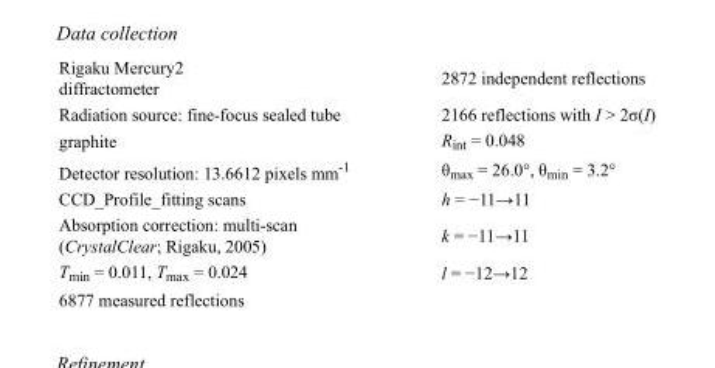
<table><tbody><tr><td>Rigaku Mercury2 diffractometer</td><td>2872 independent reflections</td></tr><tr><td>Radiation source: fine-focus sealed tube</td><td>2166 reflections with I &gt; 2σ(I)</td></tr><tr><td>graphite</td><td>R<sub>int</sub> = 0.048</td></tr><tr><td>Detector resolution: 13.6612 pixels mm<sup>-1</sup></td><td>θ<sub>max</sub> = 26.0°, θ<sub>min</sub> = 3.2°</td></tr><tr><td>CCD_Profile_fitting scans</td><td>h = −11→11</td></tr><tr><td>Absorption correction: multi-scan (CrystalClear; Rigaku, 2005)</td><td>k = −11→11</td></tr><tr><td>T<sub>min</sub> = 0.011, T<sub>max</sub> = 0.024</td><td>l = −12→12</td></tr><tr><td>6877 measured reflections</td><td></td></tr></tbody></table>